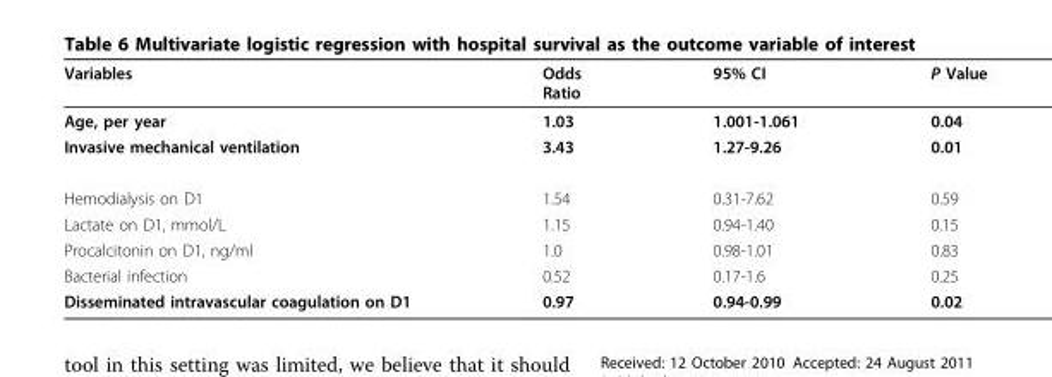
<table><thead><tr><td>Variables</td><td>Odds Ratio</td><td>95% CI</td><td>P Value</td></tr></thead><tbody><tr><td>Age, per year</td><td>1.03</td><td>1.001-1.061</td><td>0.04</td></tr><tr><td>Invasive mechanical ventilation</td><td>3.43</td><td>1.27-9.26</td><td>0.01</td></tr><tr><td>Hemodialysis on D1</td><td>1.54</td><td>0.31-7.62</td><td>0.59</td></tr><tr><td>Lactate on D1, mmol/L</td><td>1.15</td><td>0.94-1.40</td><td>0.15</td></tr><tr><td>Procalcitonin on D1, ng/ml</td><td>1.0</td><td>0.98-1.01</td><td>0.83</td></tr><tr><td>Bacterial infection</td><td>0.52</td><td>0.17-1.6</td><td>0.25</td></tr><tr><td>Disseminated intravascular coagulation on D1</td><td>0.97</td><td>0.94-0.99</td><td>0.02</td></tr></tbody></table>